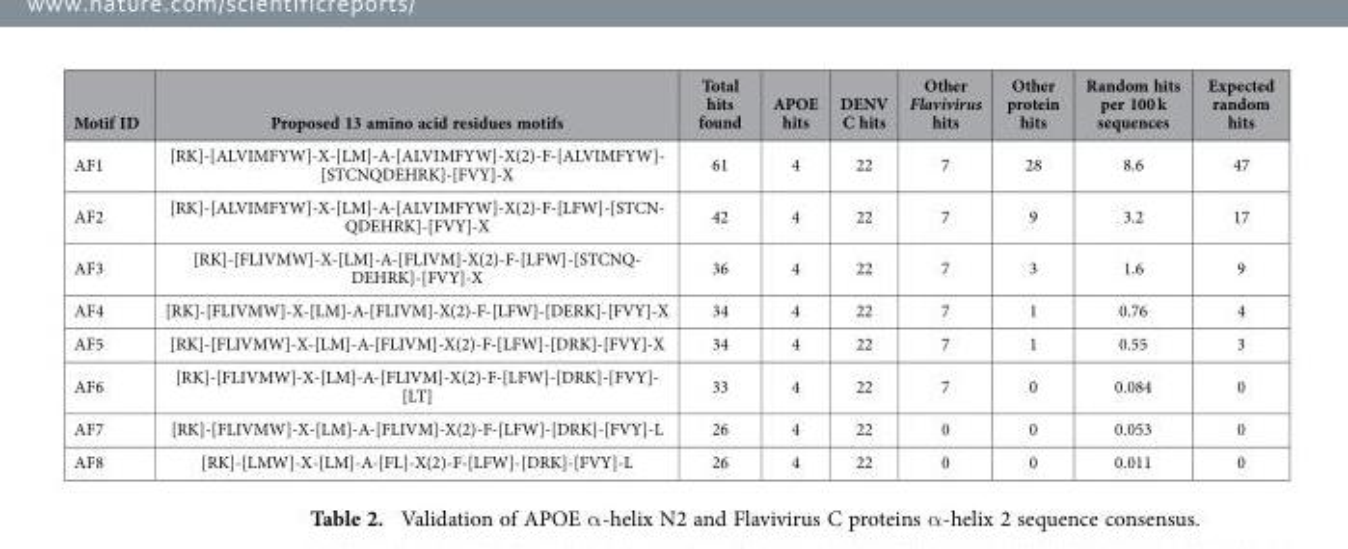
<table><thead><tr><td>Motif ID</td><td>Proposed 13 amino acid residues motifs</td><td>Total hits found</td><td>APOE hits</td><td>DENV C hits</td><td>Other Flavivirus hits</td><td>Other protein hits</td><td>Random hits per 100 k sequences</td><td>Expected random hits</td></tr></thead><tbody><tr><td>AF1</td><td>[RK]-[ALVIMFYW]-X-[LM]-A-[ALVIMFYW]-X(2)-F-[ALVIMFYW]- [STCNQDEHRK]-[FVY]-X</td><td>61</td><td>4</td><td>22</td><td>7</td><td>28</td><td>8.6</td><td>47</td></tr><tr><td>AF2</td><td>[RK]-[ALVIMFYW]-X-[LM]-A-[ALVIMFYW]-X(2)-F-[LFW]-[STCN- QDEHRK]-[FVY]-X</td><td>42</td><td>4</td><td>22</td><td>7</td><td>9</td><td>3.2</td><td>17</td></tr><tr><td>AF3</td><td>[RK]-[FLIVMW]-X-[LM]-A-[FLIVM]-X(2)-F-[LFW]-[STCNQ- DEHRK]-[FVY]-X</td><td>36</td><td>4</td><td>22</td><td>7</td><td>3</td><td>1.6</td><td>9</td></tr><tr><td>AF4</td><td>[RK]-[FLIVMW]-X-[LM]-A-[FLIVM]-X(2)-F-[LFW]-[DERK]-[FVY]-X</td><td>34</td><td>4</td><td>22</td><td>7</td><td>1</td><td>0.76</td><td>4</td></tr><tr><td>AF5</td><td>[RK]-[FLIVMW]-X-[LM]-A-[FLIVM]-X(2)-F-[LFW]-[DRK]-[FVY]-X</td><td>34</td><td>4</td><td>22</td><td>7</td><td>1</td><td>0.55</td><td>3</td></tr><tr><td>AF6</td><td>[RK]-[FLIVMW]-X-[LM]-A-[FLIVM]-X(2)-F-[LFW]-[DRK]-[FVY]- [LT]</td><td>33</td><td>4</td><td>22</td><td>7</td><td>0</td><td>0.084</td><td>0</td></tr><tr><td>AF7</td><td>[RK]-[FLIVMW]-X-[LM]-A-[FLIVM]-X(2)-F-[LFW]-[DRK]-[FVY]-L</td><td>26</td><td>4</td><td>22</td><td>0</td><td>0</td><td>0.053</td><td>0</td></tr><tr><td>AF8</td><td>[RK]-[LMW]-X-[LM]-A-[FL]-X(2)-F-[LFW]-[DRK]-[FVY]-L</td><td>26</td><td>4</td><td>22</td><td>0</td><td>0</td><td>0.011</td><td>0</td></tr></tbody></table>